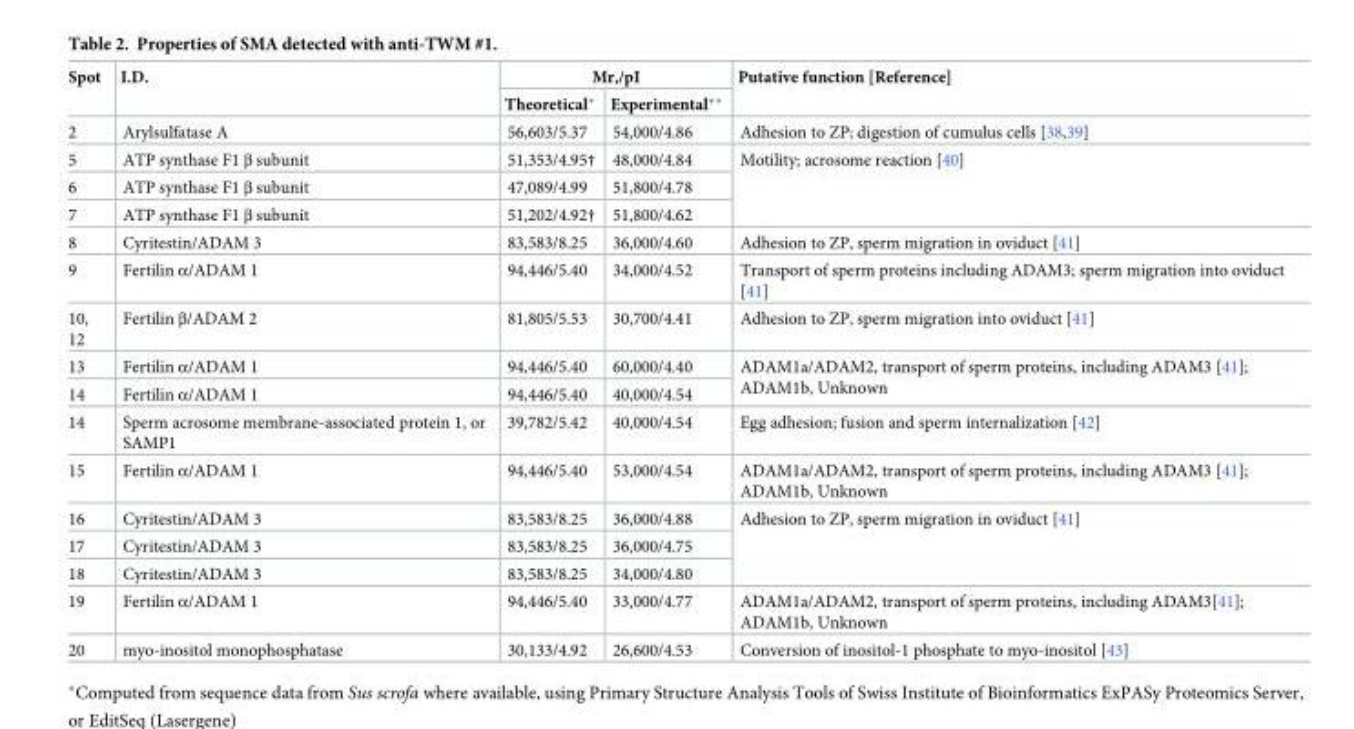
<table><thead><tr><td rowspan="2">Spot</td><td rowspan="2">I.D.</td><td colspan="2">Mr,/pI</td><td rowspan="2">Putative function [Reference]</td></tr><tr><td>Theoretical*</td><td>Experimental**</td></tr></thead><tbody><tr><td>2</td><td>Arylsulfatase A</td><td>56,603/5.37</td><td>54,000/4.86</td><td>Adhesion to ZP; digestion of cumulus cells [38,39]</td></tr><tr><td>5</td><td>ATP synthase F1 β subunit</td><td>51,353/4.95†</td><td>48,000/4.84</td><td rowspan="3">Motility; acrosome reaction [40]</td></tr><tr><td>6</td><td>ATP synthase F1 β subunit</td><td>47,089/4.99</td><td>51,800/4.78</td></tr><tr><td>7</td><td>ATP synthase F1 β subunit</td><td>51,202/4.92†</td><td>51,800/4.62</td></tr><tr><td>8</td><td>Cyritestin/ADAM 3</td><td>83,583/8.25</td><td>36,000/4.60</td><td>Adhesion to ZP, sperm migration in oviduct [41]</td></tr><tr><td>9</td><td>Fertilin α/ADAM 1</td><td>94,446/5.40</td><td>34,000/4.52</td><td>Transport of sperm proteins including ADAM3; sperm migration into oviduct [41]</td></tr><tr><td>10, 12</td><td>Fertilin β/ADAM 2</td><td>81,805/5.53</td><td>30,700/4.41</td><td>Adhesion to ZP, sperm migration into oviduct [41]</td></tr><tr><td>13</td><td>Fertilin α/ADAM 1</td><td>94,446/5.40</td><td>60,000/4.40</td><td rowspan="2">ADAM1a/ADAM2, transport of sperm proteins, including ADAM3 [41]; ADAM1b, Unknown</td></tr><tr><td>14</td><td>Fertilin α/ADAM 1</td><td>94,446/5.40</td><td>40,000/4.54</td></tr><tr><td>14</td><td>Sperm acrosome membrane-associated protein 1, or SAMP1</td><td>39,782/5.42</td><td>40,000/4.54</td><td>Egg adhesion; fusion and sperm internalization [42]</td></tr><tr><td>15</td><td>Fertilin α/ADAM 1</td><td>94,446/5.40</td><td>53,000/4.54</td><td>ADAM1a/ADAM2, transport of sperm proteins, including ADAM3 [41]; ADAM1b, Unknown</td></tr><tr><td>16</td><td>Cyritestin/ADAM 3</td><td>83,583/8.25</td><td>36,000/4.88</td><td rowspan="3">Adhesion to ZP, sperm migration in oviduct [41]</td></tr><tr><td>17</td><td>Cyritestin/ADAM 3</td><td>83,583/8.25</td><td>36,000/4.75</td></tr><tr><td>18</td><td>Cyritestin/ADAM 3</td><td>83,583/8.25</td><td>34,000/4.80</td></tr><tr><td>19</td><td>Fertilin α/ADAM 1</td><td>94,446/5.40</td><td>33,000/4.77</td><td>ADAM1a/ADAM2, transport of sperm proteins, including ADAM3[41]; ADAM1b, Unknown</td></tr><tr><td>20</td><td>myo-inositol monophosphatase</td><td>30,133/4.92</td><td>26,600/4.53</td><td>Conversion of inositol-1 phosphate to myo-inositol [43]</td></tr></tbody></table>